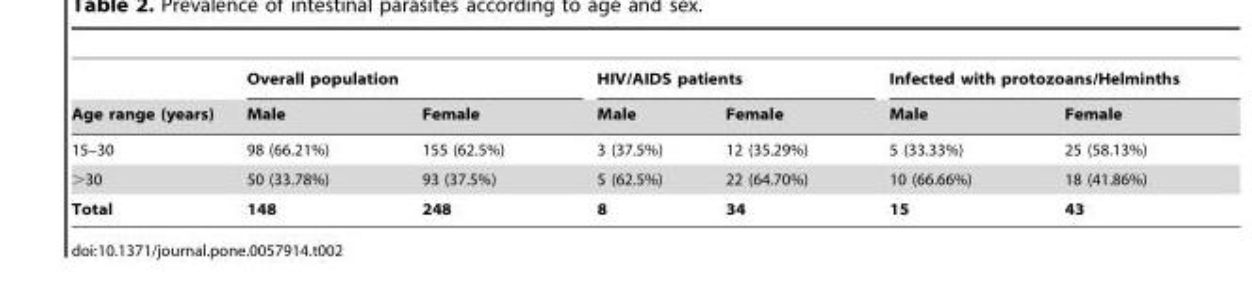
<table><thead><tr><td rowspan="2">Age range (years)</td><td colspan="2">Overall population</td><td colspan="2">HIV/AIDS patients</td><td colspan="2">Infected with protozoans/Helminths</td></tr><tr><td>Male</td><td>Female</td><td>Male</td><td>Female</td><td>Male</td><td>Female</td></tr></thead><tbody><tr><td>15–30</td><td>98 (66.21%)</td><td>155 (62.5%)</td><td>3 (37.5%)</td><td>12 (35.29%)</td><td>5 (33.33%)</td><td>25 (58.13%)</td></tr><tr><td>&gt;30</td><td>50 (33.78%)</td><td>93 (37.5%)</td><td>5 (62.5%)</td><td>22 (64.70%)</td><td>10 (66.66%)</td><td>18 (41.86%)</td></tr><tr><td>Total</td><td>148</td><td>248</td><td>8</td><td>34</td><td>15</td><td>43</td></tr></tbody></table>